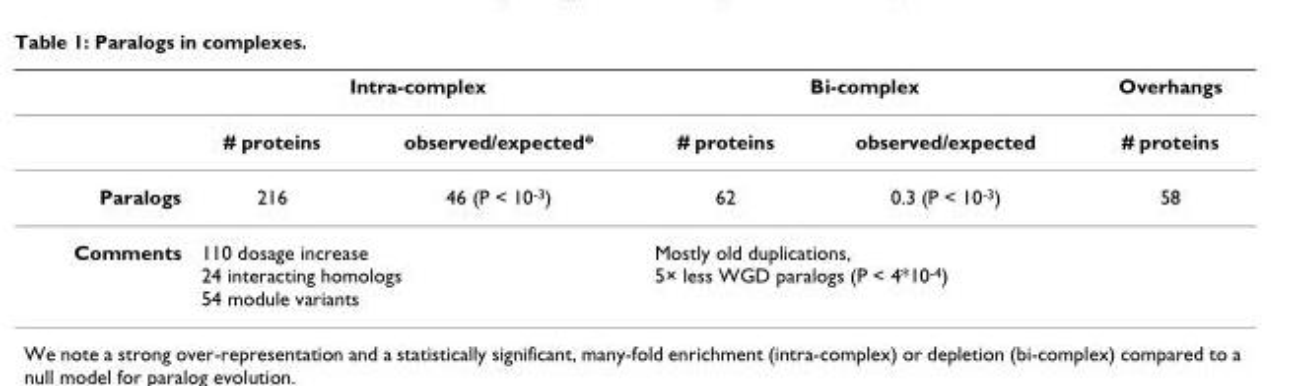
<table><thead><tr><td rowspan="2"></td><td colspan="2">Intra-complex</td><td colspan="2">Bi-complex</td><td rowspan="2">Overhangs # proteins</td></tr><tr><td># proteins</td><td>observed/expected*</td><td># proteins</td><td>observed/expected</td></tr></thead><tbody><tr><td>Paralogs</td><td>216</td><td>46 (P &lt; 10<sup>-3</sup>)</td><td>62</td><td>0.3 (P &lt; 10<sup>-3</sup>)</td><td>58</td></tr><tr><td>Comments</td><td colspan="2">110 dosage increase 24 interacting homologs 54 module variants</td><td colspan="2">Mostly old duplications, 5× less WGD paralogs (P &lt; 4*10<sup>-4</sup>)</td><td></td></tr></tbody></table>